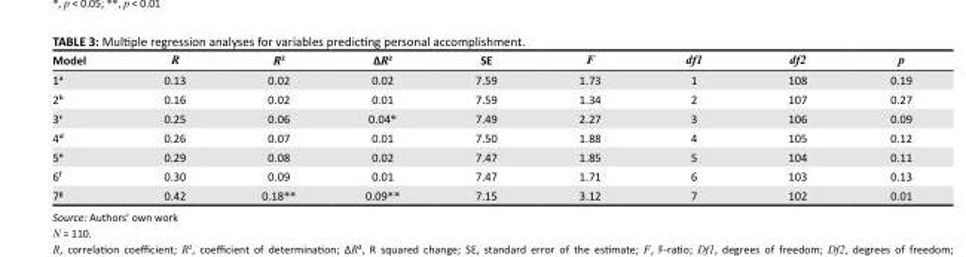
<table><thead><tr><td>Model</td><td>R</td><td>R<sup>2</sup></td><td>ΔR<sup>2</sup></td><td>SE</td><td>F</td><td>df1</td><td>df2</td><td>p</td></tr></thead><tbody><tr><td>1<sup>ᵃ</sup></td><td>0.13</td><td>0.02</td><td>0.02</td><td>7.59</td><td>1.73</td><td>1</td><td>108</td><td>0.19</td></tr><tr><td>2<sup>ᵇ</sup></td><td>0.16</td><td>0.02</td><td>0.01</td><td>7.59</td><td>1.34</td><td>2</td><td>107</td><td>0.27</td></tr><tr><td>3<sup>ᶜ</sup></td><td>0.25</td><td>0.06</td><td>0.04*</td><td>7.49</td><td>2.27</td><td>3</td><td>106</td><td>0.09</td></tr><tr><td>4<sup>ᵈ</sup></td><td>0.26</td><td>0.07</td><td>0.01</td><td>7.50</td><td>1.88</td><td>4</td><td>105</td><td>0.12</td></tr><tr><td>5<sup>ᵉ</sup></td><td>0.29</td><td>0.08</td><td>0.02</td><td>7.47</td><td>1.85</td><td>5</td><td>104</td><td>0.11</td></tr><tr><td>6<sup>ᶠ</sup></td><td>0.30</td><td>0.09</td><td>0.01</td><td>7.47</td><td>1.71</td><td>6</td><td>103</td><td>0.13</td></tr><tr><td>7ᶢ</td><td>0.42</td><td>0.18**</td><td>0.09**</td><td>7.15</td><td>3.12</td><td>7</td><td>102</td><td>0.01</td></tr></tbody></table>